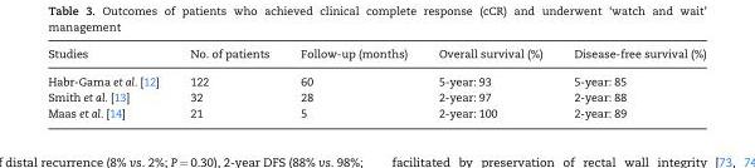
<table><thead><tr><td>Studies</td><td>No. of patients</td><td>Follow-up (months)</td><td>Overall survival (%)</td><td>Disease-free survival (%)</td></tr></thead><tbody><tr><td>Habr-Gama et al. [12]</td><td>122</td><td>60</td><td>5-year: 93</td><td>5-year: 85</td></tr><tr><td>Smith et al. [13]</td><td>32</td><td>28</td><td>2-year: 97</td><td>2-year: 88</td></tr><tr><td>Maas et al. [14]</td><td>21</td><td>5</td><td>2-year: 100</td><td>2-year: 89</td></tr></tbody></table>